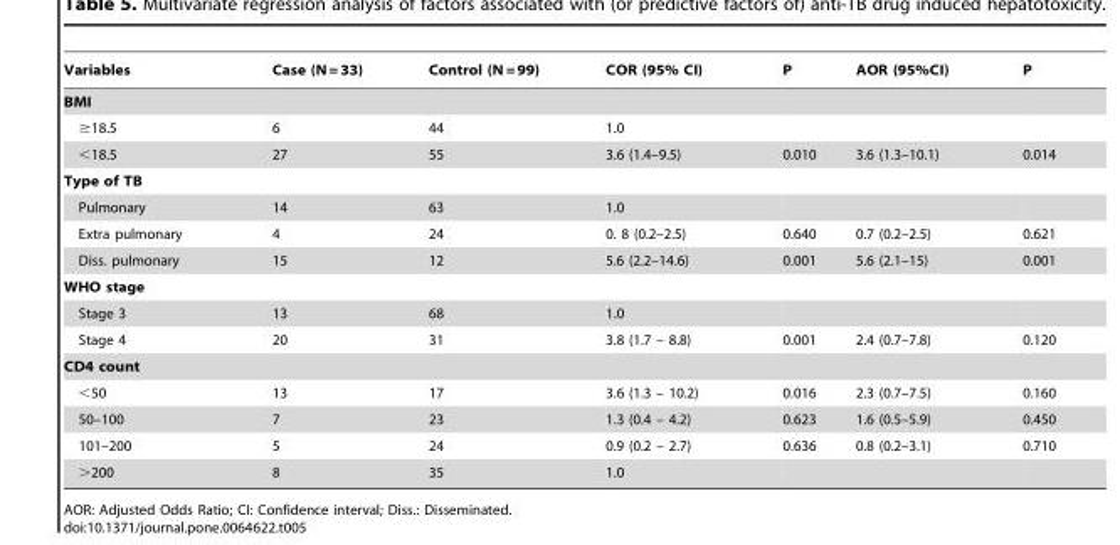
<table><thead><tr><td>Variables</td><td>Case (N = 33)</td><td>Control (N = 99)</td><td>COR (95% CI)</td><td>P</td><td>AOR (95%CI)</td><td>P</td></tr></thead><tbody><tr><td colspan="7">BMI</td></tr><tr><td>≥18.5</td><td>6</td><td>44</td><td>1.0</td><td></td><td></td><td></td></tr><tr><td>&lt;18.5</td><td>27</td><td>55</td><td>3.6 (1.4–9.5)</td><td>0.010</td><td>3.6 (1.3–10.1)</td><td>0.014</td></tr><tr><td colspan="7">Type of TB</td></tr><tr><td>Pulmonary</td><td>14</td><td>63</td><td>1.0</td><td></td><td></td><td></td></tr><tr><td>Extra pulmonary</td><td>4</td><td>24</td><td>0. 8 (0.2–2.5)</td><td>0.640</td><td>0.7 (0.2–2.5)</td><td>0.621</td></tr><tr><td>Diss. pulmonary</td><td>15</td><td>12</td><td>5.6 (2.2–14.6)</td><td>0.001</td><td>5.6 (2.1–15)</td><td>0.001</td></tr><tr><td colspan="7">WHO stage</td></tr><tr><td>Stage 3</td><td>13</td><td>68</td><td>1.0</td><td></td><td></td><td></td></tr><tr><td>Stage 4</td><td>20</td><td>31</td><td>3.8 (1.7 – 8.8)</td><td>0.001</td><td>2.4 (0.7–7.8)</td><td>0.120</td></tr><tr><td colspan="7">CD4 count</td></tr><tr><td>&lt;50</td><td>13</td><td>17</td><td>3.6 (1.3 – 10.2)</td><td>0.016</td><td>2.3 (0.7–7.5)</td><td>0.160</td></tr><tr><td>50–100</td><td>7</td><td>23</td><td>1.3 (0.4 – 4.2)</td><td>0.623</td><td>1.6 (0.5–5.9)</td><td>0.450</td></tr><tr><td>101–200</td><td>5</td><td>24</td><td>0.9 (0.2 – 2.7)</td><td>0.636</td><td>0.8 (0.2–3.1)</td><td>0.710</td></tr><tr><td>&gt;200</td><td>8</td><td>35</td><td>1.0</td><td></td><td></td><td></td></tr></tbody></table>